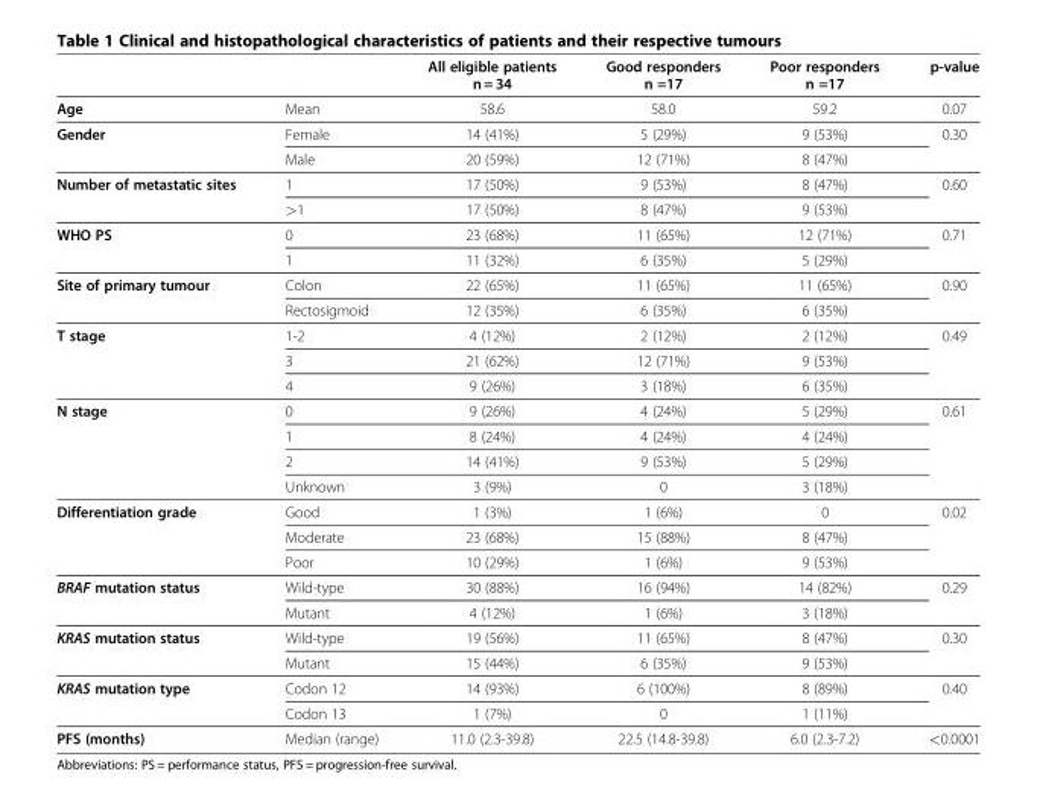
<table><thead><tr><td></td><td></td><td>All eligible patients n = 34</td><td>Good responders n =17</td><td>Poor responders n =17</td><td>p-value</td></tr></thead><tbody><tr><td>Age</td><td>Mean</td><td>58.6</td><td>58.0</td><td>59.2</td><td>0.07</td></tr><tr><td rowspan="2">Gender</td><td>Female</td><td>14 (41%)</td><td>5 (29%)</td><td>9 (53%)</td><td rowspan="2">0.30</td></tr><tr><td>Male</td><td>20 (59%)</td><td>12 (71%)</td><td>8 (47%)</td></tr><tr><td rowspan="2">Number of metastatic sites</td><td>1</td><td>17 (50%)</td><td>9 (53%)</td><td>8 (47%)</td><td rowspan="2">0.60</td></tr><tr><td>&gt;1</td><td>17 (50%)</td><td>8 (47%)</td><td>9 (53%)</td></tr><tr><td rowspan="2">WHO PS</td><td>0</td><td>23 (68%)</td><td>11 (65%)</td><td>12 (71%)</td><td rowspan="2">0.71</td></tr><tr><td>1</td><td>11 (32%)</td><td>6 (35%)</td><td>5 (29%)</td></tr><tr><td rowspan="2">Site of primary tumour</td><td>Colon</td><td>22 (65%)</td><td>11 (65%)</td><td>11 (65%)</td><td rowspan="2">0.90</td></tr><tr><td>Rectosigmoid</td><td>12 (35%)</td><td>6 (35%)</td><td>6 (35%)</td></tr><tr><td rowspan="3">T stage</td><td>1-2</td><td>4 (12%)</td><td>2 (12%)</td><td>2 (12%)</td><td rowspan="3">0.49</td></tr><tr><td>3</td><td>21 (62%)</td><td>12 (71%)</td><td>9 (53%)</td></tr><tr><td>4</td><td>9 (26%)</td><td>3 (18%)</td><td>6 (35%)</td></tr><tr><td rowspan="4">N stage</td><td>0</td><td>9 (26%)</td><td>4 (24%)</td><td>5 (29%)</td><td rowspan="4">0.61</td></tr><tr><td>1</td><td>8 (24%)</td><td>4 (24%)</td><td>4 (24%)</td></tr><tr><td>2</td><td>14 (41%)</td><td>9 (53%)</td><td>5 (29%)</td></tr><tr><td>Unknown</td><td>3 (9%)</td><td>0</td><td>3 (18%)</td></tr><tr><td rowspan="5">Differentiation grade BRAF mutation status</td><td>Good</td><td>1 (3%)</td><td>1 (6%)</td><td>0</td><td rowspan="3">0.02</td></tr><tr><td>Moderate</td><td>23 (68%)</td><td>15 (88%)</td><td>8 (47%)</td></tr><tr><td>Poor</td><td>10 (29%)</td><td>1 (6%)</td><td>9 (53%)</td></tr><tr><td>Wild-type</td><td>30 (88%)</td><td>16 (94%)</td><td>14 (82%)</td><td rowspan="2">0.29</td></tr><tr><td>Mutant</td><td>4 (12%)</td><td>1 (6%)</td><td>3 (18%)</td></tr><tr><td rowspan="2">KRAS mutation status</td><td>Wild-type</td><td>19 (56%)</td><td>11 (65%)</td><td>8 (47%)</td><td rowspan="2">0.30</td></tr><tr><td>Mutant</td><td>15 (44%)</td><td>6 (35%)</td><td>9 (53%)</td></tr><tr><td rowspan="2">KRAS mutation type</td><td>Codon 12</td><td>14 (93%)</td><td>6 (100%)</td><td>8 (89%)</td><td rowspan="2">0.40</td></tr><tr><td>Codon 13</td><td>1 (7%)</td><td>0</td><td>1 (11%)</td></tr><tr><td>PFS (months)</td><td>Median (range)</td><td>11.0 (2.3-39.8)</td><td>22.5 (14.8-39.8)</td><td>6.0 (2.3-7.2)</td><td>&lt;0.0001</td></tr></tbody></table>